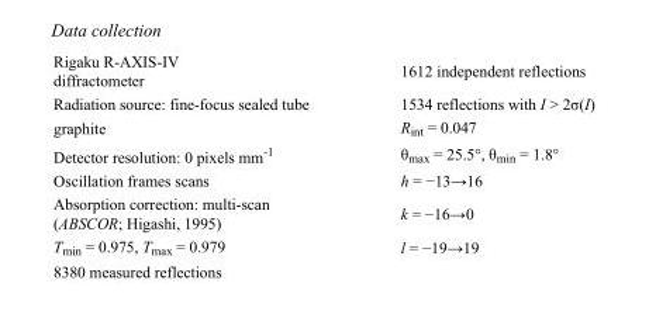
<table><tbody><tr><td>Rigaku R-AXIS-IV diffractometer</td><td>1612 independent reflections</td></tr><tr><td>Radiation source: fine-focus sealed tube</td><td>1534 reflections with I &gt; 2σ(I)</td></tr><tr><td>graphite</td><td>R<sub>int</sub> = 0.047</td></tr><tr><td>Detector resolution: 0 pixels mm<sup>-1</sup></td><td>θ<sub>max</sub> = 25.5°, θ<sub>min</sub> = 1.8°</td></tr><tr><td>Oscillation frames scans</td><td>h = −13→16</td></tr><tr><td>Absorption correction: multi-scan (ABSCOR; Higashi, 1995)</td><td>k = −16→0</td></tr><tr><td>T<sub>min</sub> = 0.975, T<sub>max</sub> = 0.979</td><td>l = −19→19</td></tr><tr><td>8380 measured reflections</td><td></td></tr></tbody></table>